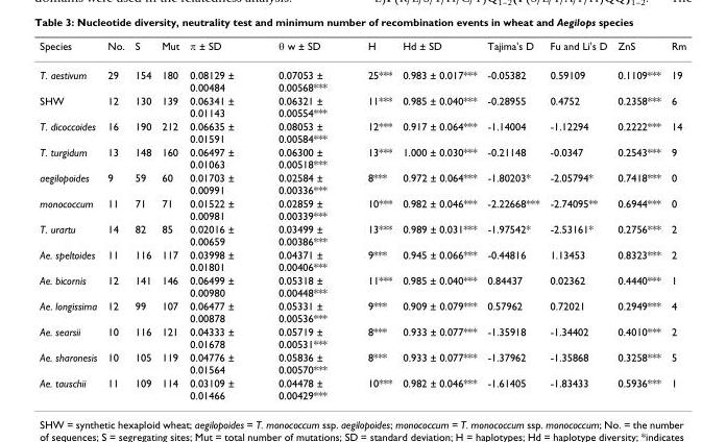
<table><thead><tr><td>Species</td><td>No.</td><td>S</td><td>Mut</td><td>π ± SD</td><td>θ w ± SD</td><td>H</td><td>Hd ± SD</td><td>Tajima&#x27;s D</td><td>Fu and Li&#x27;s D</td><td>ZnS</td><td>Rm</td></tr></thead><tbody><tr><td>T. aestivum</td><td>29</td><td>154</td><td>180</td><td>0.08129 ± 0.00484</td><td>0.07053 ± 0.00568***</td><td>25***</td><td>0.983 ± 0.017***</td><td>-0.05382</td><td>0.59109</td><td>0.1109***</td><td>19</td></tr><tr><td>SHW</td><td>12</td><td>130</td><td>139</td><td>0.06341 ± 0.01143</td><td>0.06321 ± 0.00554***</td><td>11***</td><td>0.985 ± 0.040***</td><td>-0.28955</td><td>0.4752</td><td>0.2358***</td><td>6</td></tr><tr><td>T. dicoccoides</td><td>16</td><td>190</td><td>212</td><td>0.06635 ± 0.01591</td><td>0.08053 ± 0.00584***</td><td>12***</td><td>0.917 ± 0.064***</td><td>-1.14004</td><td>-1.12294</td><td>0.2222***</td><td>14</td></tr><tr><td>T. turgidum</td><td>13</td><td>148</td><td>160</td><td>0.06497 ± 0.01063</td><td>0.06300 ± 0.00518***</td><td>13***</td><td>1.000 ± 0.030***</td><td>-0.21148</td><td>-0.0347</td><td>0.2543***</td><td>9</td></tr><tr><td>aegilopoides</td><td>9</td><td>59</td><td>60</td><td>0.01703 ± 0.00991</td><td>0.02584 ± 0.00336***</td><td>8***</td><td>0.972 ± 0.064***</td><td>-1.80203*</td><td>-2.05794*</td><td>0.7418***</td><td>0</td></tr><tr><td>monococcum</td><td>11</td><td>71</td><td>71</td><td>0.01522 ± 0.00981</td><td>0.02859 ± 0.00339***</td><td>10***</td><td>0.982 ± 0.046***</td><td>-2.22668***</td><td>-2.74095**</td><td>0.6944***</td><td>0</td></tr><tr><td>T. urartu</td><td>14</td><td>82</td><td>85</td><td>0.02016 ± 0.00659</td><td>0.03499 ± 0.00386***</td><td>13***</td><td>0.989 ± 0.031***</td><td>-1.97542*</td><td>-2.53161*</td><td>0.2756***</td><td>2</td></tr><tr><td>Ae. speltoides</td><td>11</td><td>116</td><td>117</td><td>0.03998 ± 0.01801</td><td>0.04371 ± 0.00406***</td><td>9***</td><td>0.945 ± 0.066***</td><td>-0.44816</td><td>1.13453</td><td>0.8323***</td><td>2</td></tr><tr><td>Ae. bicornis</td><td>12</td><td>141</td><td>146</td><td>0.06499 ± 0.00980</td><td>0.05318 ± 0.00448***</td><td>11***</td><td>0.985 ± 0.040***</td><td>0.84437</td><td>0.02362</td><td>0.4440***</td><td>1</td></tr><tr><td>Ae. longissima</td><td>12</td><td>99</td><td>107</td><td>0.06477 ± 0.00878</td><td>0.05331 ± 0.00536***</td><td>9***</td><td>0.909 ± 0.079***</td><td>0.57962</td><td>0.72021</td><td>0.2949***</td><td>4</td></tr><tr><td>Ae. searsii</td><td>10</td><td>116</td><td>121</td><td>0.04333 ± 0.01678</td><td>0.05719 ± 0.00531***</td><td>8***</td><td>0.933 ± 0.077***</td><td>-1.35918</td><td>-1.34402</td><td>0.4010***</td><td>2</td></tr><tr><td>Ae. sharonesis</td><td>10</td><td>105</td><td>119</td><td>0.04776 ± 0.01564</td><td>0.05836 ± 0.00570***</td><td>8***</td><td>0.933 ± 0.077***</td><td>-1.37962</td><td>-1.35868</td><td>0.3258***</td><td>5</td></tr><tr><td>Ae. tauschii</td><td>11</td><td>109</td><td>114</td><td>0.03109 ± 0.01466</td><td>0.04478 ± 0.00429***</td><td>10***</td><td>0.982 ± 0.046***</td><td>-1.61405</td><td>-1.83433</td><td>0.5936***</td><td>1</td></tr></tbody></table>